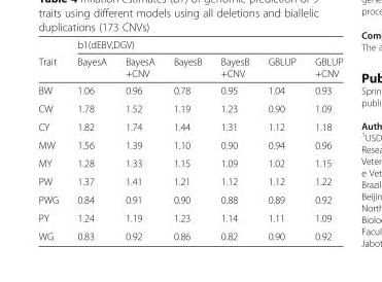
<table><thead><tr><td rowspan="2">Trait</td><td colspan="6">b1(dEBV,DGV)</td></tr><tr><td>BayesA</td><td>BayesA +CNV</td><td>BayesB</td><td>BayesB +CNV</td><td>GBLUP</td><td>GBLUP +CNV</td></tr></thead><tbody><tr><td>BW</td><td>1.06</td><td>0.96</td><td>0.78</td><td>0.95</td><td>1.04</td><td>0.93</td></tr><tr><td>CW</td><td>1.78</td><td>1.52</td><td>1.19</td><td>1.23</td><td>0.90</td><td>1.09</td></tr><tr><td>CY</td><td>1.82</td><td>1.74</td><td>1.44</td><td>1.31</td><td>1.12</td><td>1.18</td></tr><tr><td>MW</td><td>1.56</td><td>1.39</td><td>1.10</td><td>0.90</td><td>0.94</td><td>0.96</td></tr><tr><td>MY</td><td>1.28</td><td>1.33</td><td>1.15</td><td>1.09</td><td>1.02</td><td>1.15</td></tr><tr><td>PW</td><td>1.37</td><td>1.41</td><td>1.21</td><td>1.12</td><td>1.12</td><td>1.22</td></tr><tr><td>PWG</td><td>0.84</td><td>0.91</td><td>0.90</td><td>0.88</td><td>0.89</td><td>0.92</td></tr><tr><td>PY</td><td>1.24</td><td>1.19</td><td>1.23</td><td>1.14</td><td>1.11</td><td>1.09</td></tr><tr><td>WG</td><td>0.83</td><td>0.92</td><td>0.86</td><td>0.82</td><td>0.90</td><td>0.92</td></tr></tbody></table>